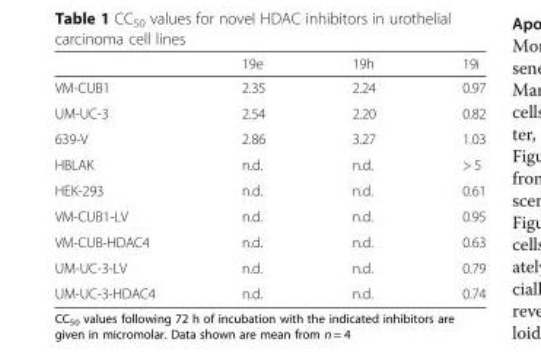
<table><thead><tr><td></td><td>19e</td><td>19h</td><td>19i</td></tr></thead><tbody><tr><td>VM-CUB1</td><td>2.35</td><td>2.24</td><td>0.97</td></tr><tr><td>UM-UC-3</td><td>2.54</td><td>2.20</td><td>0.82</td></tr><tr><td>639-V</td><td>2.86</td><td>3.27</td><td>1.03</td></tr><tr><td>HBLAK</td><td>n.d.</td><td>n.d.</td><td>&gt; 5</td></tr><tr><td>HEK-293</td><td>n.d.</td><td>n.d.</td><td>0.61</td></tr><tr><td>VM-CUB1-LV</td><td>n.d.</td><td>n.d.</td><td>0.95</td></tr><tr><td>VM-CUB-HDAC4</td><td>n.d.</td><td>n.d.</td><td>0.63</td></tr><tr><td>UM-UC-3-LV</td><td>n.d.</td><td>n.d.</td><td>0.79</td></tr><tr><td>UM-UC-3-HDAC4</td><td>n.d.</td><td>n.d.</td><td>0.74</td></tr></tbody></table>